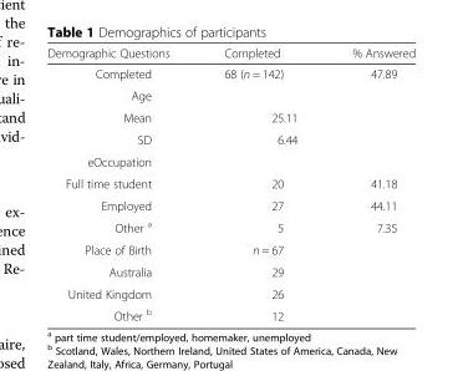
<table><thead><tr><td>Demographic Questions</td><td>Completed</td><td>% Answered</td></tr></thead><tbody><tr><td>Completed</td><td>68 (n = 142)</td><td>47.89</td></tr><tr><td colspan="3">Age</td></tr><tr><td>Mean</td><td>25.11</td><td></td></tr><tr><td>SD</td><td>6.44</td><td></td></tr><tr><td colspan="3">eOccupation</td></tr><tr><td>Full time student</td><td>20</td><td>41.18</td></tr><tr><td>Employed</td><td>27</td><td>44.11</td></tr><tr><td>Other <sup>a</sup></td><td>5</td><td>7.35</td></tr><tr><td>Place of Birth</td><td>n = 67</td><td></td></tr><tr><td>Australia</td><td>29</td><td></td></tr><tr><td>United Kingdom</td><td>26</td><td></td></tr><tr><td>Other <sup>b</sup></td><td>12</td><td></td></tr></tbody></table>